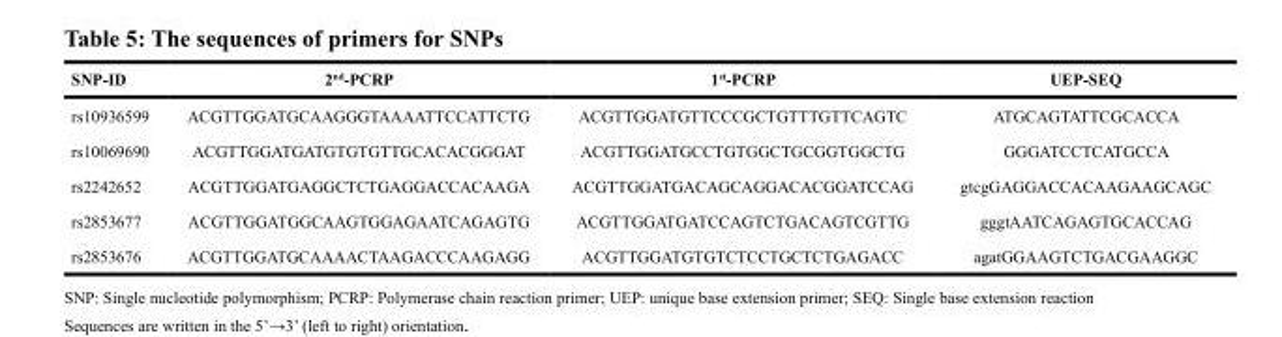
<table><thead><tr><td>SNP-ID</td><td>2<sup>nd</sup>-PCRP</td><td>1<sup>st</sup>-PCRP</td><td>UEP-SEQ</td></tr></thead><tbody><tr><td>rs10936599</td><td>ACGTTGGATGCAAGGGTAAAATTCCATTCTG</td><td>ACGTTGGATGTTCCCGCTGTTTGTTCAGTC</td><td>ATGCAGTATTCGCACCA</td></tr><tr><td>rs10069690</td><td>ACGTTGGATGATGTGTGTTGCACACGGGAT</td><td>ACGTTGGATGCCTGTGGCTGCGGTGGCTG</td><td>GGGATCCTCATGCCA</td></tr><tr><td>rs2242652</td><td>ACGTTGGATGAGGCTCTGAGGACCACAAGA</td><td>ACGTTGGATGACAGCAGGACACGGATCCAG</td><td>gtcgGAGGACCACAAGAAGCAGC</td></tr><tr><td>rs2853677</td><td>ACGTTGGATGGCAAGTGGAGAATCAGAGTG</td><td>ACGTTGGATGATCCAGTCTGACAGTCGTTG</td><td>gggtAATCAGAGTGCACCAG</td></tr><tr><td>rs2853676</td><td>ACGTTGGATGCAAAACTAAGACCCAAGAGG</td><td>ACGTTGGATGTGTCTCCTGCTCTGAGACC</td><td>agatGGAAGTCTGACGAAGGC</td></tr></tbody></table>